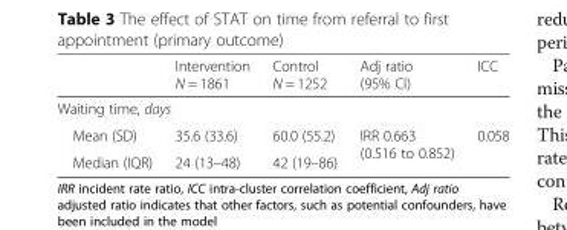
<table><thead><tr><td></td><td>Intervention N = 1861</td><td>Control N = 1252</td><td>Adj ratio (95% CI)</td><td>ICC</td></tr></thead><tbody><tr><td colspan="5">Waiting time, days</td></tr><tr><td>Mean (SD)</td><td>35.6 (33.6)</td><td>60.0 (55.2)</td><td rowspan="2">IRR 0.663 (0.516 to 0.852)</td><td rowspan="2">0.058</td></tr><tr><td>Median (IQR)</td><td>24 (13–48)</td><td>42 (19–86)</td></tr></tbody></table>